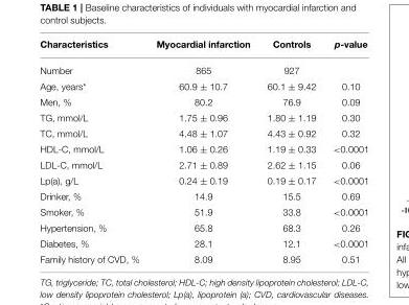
<table><thead><tr><td>Characteristics</td><td>Myocardial infarction</td><td>Controls</td><td>p-value</td></tr></thead><tbody><tr><td>Number</td><td>865</td><td>927</td><td></td></tr><tr><td>Age, years*</td><td>60.9 ± 10.7</td><td>60.1 ± 9.42</td><td>0.10</td></tr><tr><td>Men, %</td><td>80.2</td><td>76.9</td><td>0.09</td></tr><tr><td>TG, mmol/L</td><td>1.75 ± 0.96</td><td>1.80 ± 1.19</td><td>0.30</td></tr><tr><td>TC, mmol/L</td><td>4.48 ± 1.07</td><td>4.43 ± 0.92</td><td>0.32</td></tr><tr><td>HDL-C, mmol/L</td><td>1.06 ± 0.26</td><td>1.19 ± 0.33</td><td>&lt;0.0001</td></tr><tr><td>LDL-C, mmol/L</td><td>2.71 ± 0.89</td><td>2.62 ± 1.15</td><td>0.06</td></tr><tr><td>Lp(a), g/L</td><td>0.24 ± 0.19</td><td>0.19 ± 0.17</td><td>&lt;0.0001</td></tr><tr><td>Drinker, %</td><td>14.9</td><td>15.5</td><td>0.69</td></tr><tr><td>Smoker, %</td><td>51.9</td><td>33.8</td><td>&lt;0.0001</td></tr><tr><td>Hypertension, %</td><td>65.8</td><td>68.3</td><td>0.26</td></tr><tr><td>Diabetes, %</td><td>28.1</td><td>12.1</td><td>&lt;0.0001</td></tr><tr><td>Family history of CVD, %</td><td>8.09</td><td>8.95</td><td>0.51</td></tr></tbody></table>